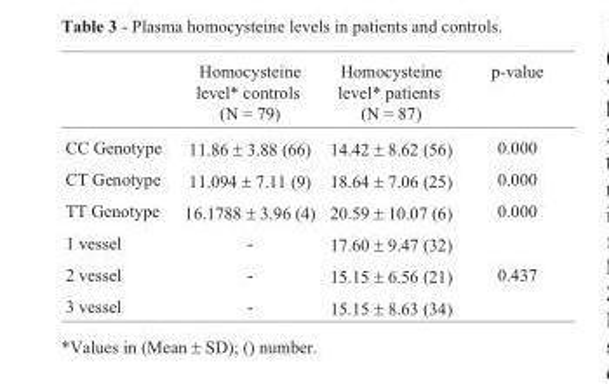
<table><thead><tr><td></td><td>Homocysteine level* controls (N = 79)</td><td>Homocysteine level* patients (N = 87)</td><td>p-value</td></tr></thead><tbody><tr><td>CC Genotype</td><td>11.86 ± 3.88 (66)</td><td>14.42 ± 8.62 (56)</td><td>0.000</td></tr><tr><td>CT Genotype</td><td>11.094 ± 7.11 (9)</td><td>18.64 ± 7.06 (25)</td><td>0.000</td></tr><tr><td>TT Genotype</td><td>16.1788 ± 3.96 (4)</td><td>20.59 ± 10.07 (6)</td><td>0.000</td></tr><tr><td>1 vessel</td><td>-</td><td>17.60 ± 9.47 (32)</td><td></td></tr><tr><td>2 vessel</td><td>-</td><td>15.15 ± 6.56 (21)</td><td>0.437</td></tr><tr><td>3 vessel</td><td>-</td><td>15.15 ± 8.63 (34)</td><td></td></tr></tbody></table>